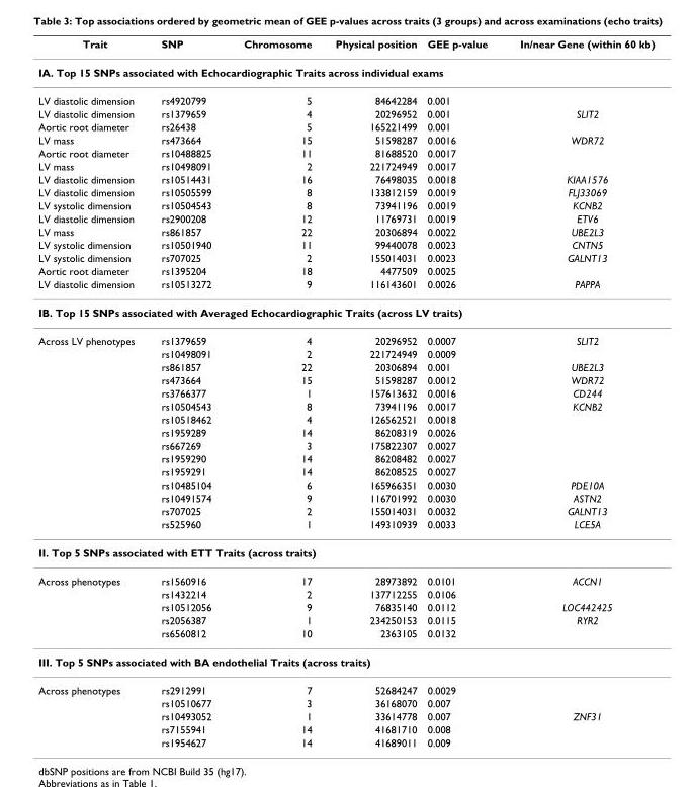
<table><thead><tr><td>Trait</td><td>SNP</td><td>Chromosome</td><td>Physical position</td><td>GEE p-value</td><td>In/near Gene (within 60 kb)</td></tr></thead><tbody><tr><td colspan="6">IA. Top 15 SNPs associated with Echocardiographic Traits across individual exams</td></tr><tr><td>LV diastolic dimension</td><td>rs4920799</td><td>5</td><td>84642284</td><td>0.001</td><td></td></tr><tr><td>LV diastolic dimension</td><td>rs1379659</td><td>4</td><td>20296952</td><td>0.001</td><td>SLIT2</td></tr><tr><td>Aortic root diameter</td><td>rs26438</td><td>5</td><td>165221499</td><td>0.001</td><td></td></tr><tr><td>LV mass</td><td>rs473664</td><td>15</td><td>51598287</td><td>0.0016</td><td>WDR72</td></tr><tr><td>Aortic root diameter</td><td>rs10488825</td><td>11</td><td>81688520</td><td>0.0017</td><td></td></tr><tr><td>LV mass</td><td>rs10498091</td><td>2</td><td>221724949</td><td>0.0017</td><td></td></tr><tr><td>LV diastolic dimension</td><td>rs10514431</td><td>16</td><td>76498035</td><td>0.0018</td><td>KIAA1576</td></tr><tr><td>LV diastolic dimension</td><td>rs10505599</td><td>8</td><td>133812159</td><td>0.0019</td><td>FLJ33069</td></tr><tr><td>LV systolic dimension</td><td>rs10504543</td><td>8</td><td>73941196</td><td>0.0019</td><td>KCNB2</td></tr><tr><td>LV diastolic dimension</td><td>rs2900208</td><td>12</td><td>11769731</td><td>0.0019</td><td>ETV6</td></tr><tr><td>LV mass</td><td>rs861857</td><td>22</td><td>20306894</td><td>0.0022</td><td>UBE2L3</td></tr><tr><td>LV systolic dimension</td><td>rs10501940</td><td>11</td><td>99440078</td><td>0.0023</td><td>CNTN5</td></tr><tr><td>LV systolic dimension</td><td>rs707025</td><td>2</td><td>155014031</td><td>0.0023</td><td>GALNT13</td></tr><tr><td>Aortic root diameter</td><td>rs1395204</td><td>18</td><td>4477509</td><td>0.0025</td><td></td></tr><tr><td>LV diastolic dimension</td><td>rs10513272</td><td>9</td><td>116143601</td><td>0.0026</td><td>PAPPA</td></tr><tr><td colspan="6">IB. Top 15 SNPs associated with Averaged Echocardiographic Traits (across LV traits)</td></tr><tr><td rowspan="15">Across LV phenotypes</td><td>rs1379659</td><td>4</td><td>20296952</td><td>0.0007</td><td>SLIT2</td></tr><tr><td>rs10498091</td><td>2</td><td>221724949</td><td>0.0009</td><td></td></tr><tr><td>rs861857</td><td>22</td><td>20306894</td><td>0.001</td><td>UBE2L3</td></tr><tr><td>rs473664</td><td>15</td><td>51598287</td><td>0.0012</td><td>WDR72</td></tr><tr><td>rs3766377</td><td>1</td><td>157613632</td><td>0.0016</td><td>CD244</td></tr><tr><td>rs10504543</td><td>8</td><td>73941196</td><td>0.0017</td><td>KCNB2</td></tr><tr><td>rs10518462</td><td>4</td><td>126562521</td><td>0.0018</td><td></td></tr><tr><td>rs1959289</td><td>14</td><td>86208319</td><td>0.0026</td><td></td></tr><tr><td>rs667269</td><td>3</td><td>175822307</td><td>0.0027</td><td></td></tr><tr><td>rs1959290</td><td>14</td><td>86208482</td><td>0.0027</td><td></td></tr><tr><td>rs1959291</td><td>14</td><td>86208525</td><td>0.0027</td><td></td></tr><tr><td>rs10485104</td><td>6</td><td>165966351</td><td>0.0030</td><td>PDE10A</td></tr><tr><td>rs10491574</td><td>9</td><td>116701992</td><td>0.0030</td><td>ASTN2</td></tr><tr><td>rs707025</td><td>2</td><td>155014031</td><td>0.0032</td><td>GALNT13</td></tr><tr><td>rs525960</td><td>1</td><td>149310939</td><td>0.0033</td><td>LCE5A</td></tr><tr><td colspan="6">II. Top 5 SNPs associated with ETT Traits (across traits)</td></tr><tr><td rowspan="5">Across phenotypes</td><td>rs1560916</td><td>17</td><td>28973892</td><td>0.0101</td><td>ACCN1</td></tr><tr><td>rs1432214</td><td>2</td><td>137712255</td><td>0.0106</td><td></td></tr><tr><td>rs10512056</td><td>9</td><td>76835140</td><td>0.0112</td><td>LOC442425</td></tr><tr><td>rs2056387</td><td>1</td><td>234250153</td><td>0.0115</td><td>RYR2</td></tr><tr><td>rs6560812</td><td>10</td><td>2363105</td><td>0.0132</td><td></td></tr><tr><td colspan="6">III. Top 5 SNPs associated with BA endothelial Traits (across traits)</td></tr><tr><td rowspan="5">Across phenotypes</td><td>rs2912991</td><td>7</td><td>52684247</td><td>0.0029</td><td></td></tr><tr><td>rs10510677</td><td>3</td><td>36168070</td><td>0.007</td><td></td></tr><tr><td>rs10493052</td><td>1</td><td>33614778</td><td>0.007</td><td>ZNF31</td></tr><tr><td>rs7155941</td><td>14</td><td>41681710</td><td>0.008</td><td></td></tr><tr><td>rs1954627</td><td>14</td><td>41689011</td><td>0.009</td><td></td></tr></tbody></table>